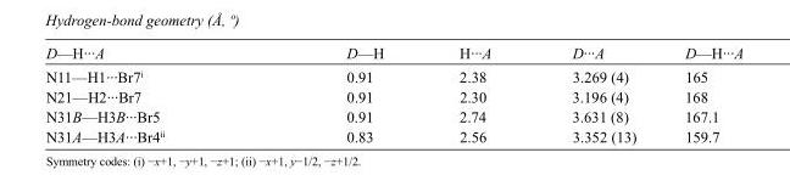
<table><tbody><tr><td>D—H···A</td><td>D—H</td><td>H···A</td><td>D···A</td><td>D—H···A</td></tr><tr><td>N11—H1···Br7<sup>i</sup></td><td>0.91</td><td>2.38</td><td>3.269 (4)</td><td>165</td></tr><tr><td>N21—H2···Br7</td><td>0.91</td><td>2.30</td><td>3.196 (4)</td><td>168</td></tr><tr><td>N31B—H3B···Br5</td><td>0.91</td><td>2.74</td><td>3.631 (8)</td><td>167.1</td></tr><tr><td>N31A—H3A···Br4<sup>ii</sup></td><td>0.83</td><td>2.56</td><td>3.352 (13)</td><td>159.7</td></tr></tbody></table>